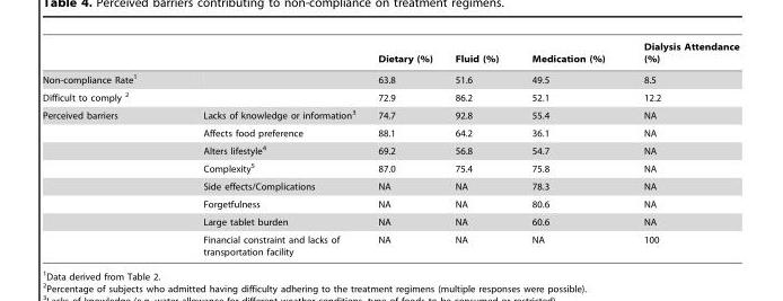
<table><thead><tr><td></td><td></td><td>Dietary (%)</td><td>Fluid (%)</td><td>Medication (%)</td><td>Dialysis Attendance (%)</td></tr></thead><tbody><tr><td>Non-compliance Rate<sup>1</sup></td><td></td><td>63.8</td><td>51.6</td><td>49.5</td><td>8.5</td></tr><tr><td>Difficult to comply 2</td><td></td><td>72.9</td><td>86.2</td><td>52.1</td><td>12.2</td></tr><tr><td rowspan="8">Perceived barriers</td><td>Lacks of knowledge or information<sup>3</sup></td><td>74.7</td><td>92.8</td><td>55.4</td><td>NA</td></tr><tr><td>Affects food preference</td><td>88.1</td><td>64.2</td><td>36.1</td><td>NA</td></tr><tr><td>Alters lifestyle<sup>4</sup></td><td>69.2</td><td>56.8</td><td>54.7</td><td>NA</td></tr><tr><td>Complexity<sup>5</sup></td><td>87.0</td><td>75.4</td><td>75.8</td><td>NA</td></tr><tr><td>Side effects/Complications</td><td>NA</td><td>NA</td><td>78.3</td><td>NA</td></tr><tr><td>Forgetfulness</td><td>NA</td><td>NA</td><td>80.6</td><td>NA</td></tr><tr><td>Large tablet burden</td><td>NA</td><td>NA</td><td>60.6</td><td>NA</td></tr><tr><td>Financial constraint and lacks of transportation facility</td><td>NA</td><td>NA</td><td>NA</td><td>100</td></tr></tbody></table>